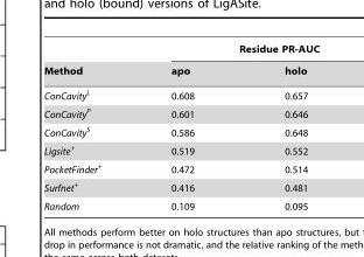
<table><thead><tr><td rowspan="2">Method</td><td colspan="2">Residue PR-AUC</td></tr><tr><td>apo</td><td>holo</td></tr></thead><tbody><tr><td>ConCavity<sup>L</sup></td><td>0.608</td><td>0.657</td></tr><tr><td>ConCavity<sup>P</sup></td><td>0.601</td><td>0.646</td></tr><tr><td>ConCavity<sup>S</sup></td><td>0.586</td><td>0.648</td></tr><tr><td>Ligsite<sup>+</sup></td><td>0.519</td><td>0.552</td></tr><tr><td>PocketFinder<sup>+</sup></td><td>0.472</td><td>0.514</td></tr><tr><td>Surfnet<sup>+</sup></td><td>0.416</td><td>0.481</td></tr><tr><td>Random</td><td>0.109</td><td>0.095</td></tr></tbody></table>